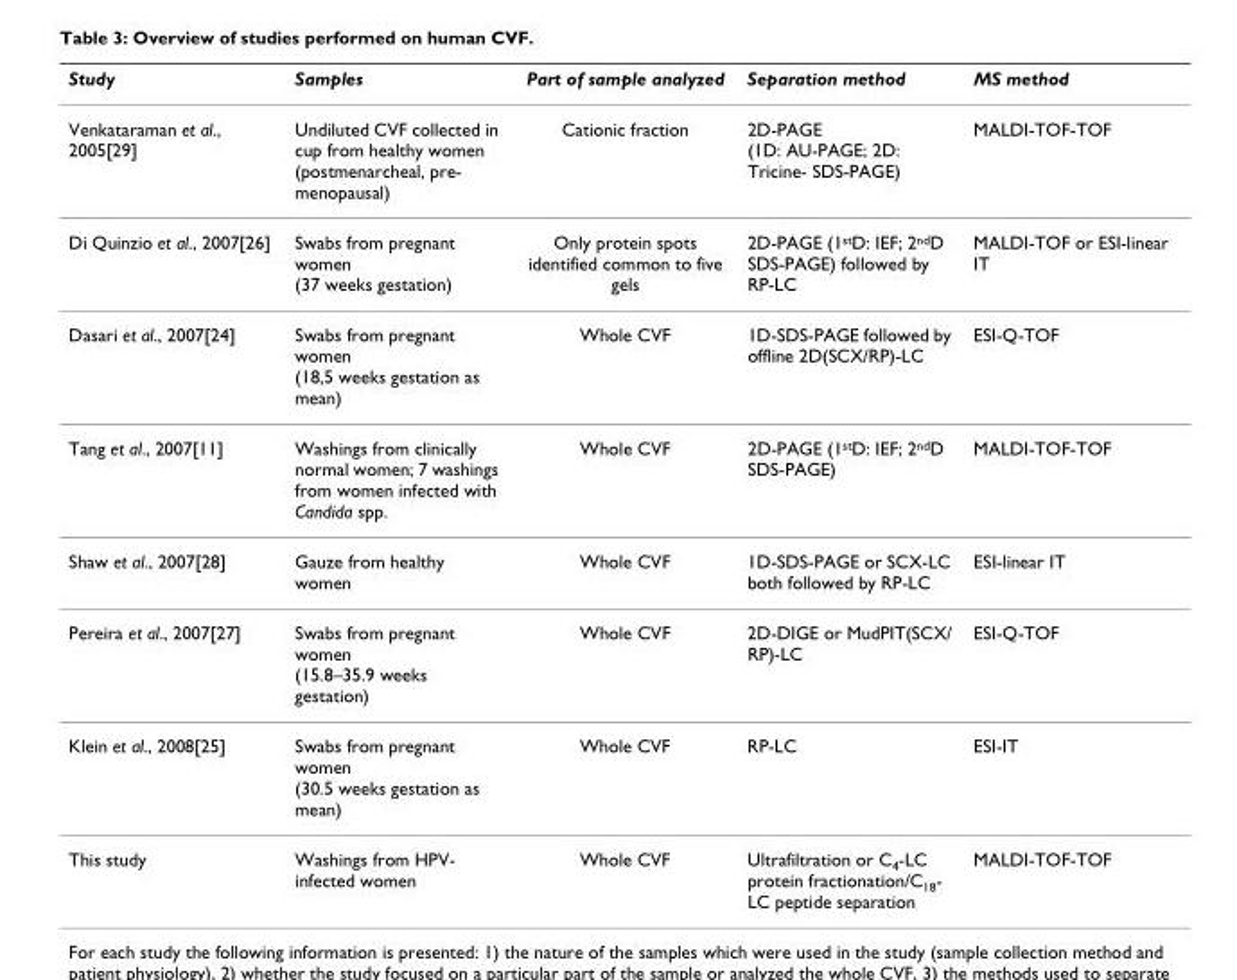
<table><thead><tr><td>Study</td><td>Samples</td><td>Part of sample analyzed</td><td>Separation method</td><td>MS method</td></tr></thead><tbody><tr><td>Venkataraman et al., 2005[29]</td><td>Undiluted CVF collected in cup from healthy women (postmenarcheal, pre- menopausal)</td><td>Cationic fraction</td><td>2D-PAGE (1D: AU-PAGE; 2D: Tricine- SDS-PAGE)</td><td>MALDI-TOF-TOF</td></tr><tr><td>Di Quinzio et al., 2007[26]</td><td>Swabs from pregnant women (37 weeks gestation)</td><td>Only protein spots identified common to five gels</td><td>2D-PAGE (1<sup>st</sup>D: IEF; 2<sup>nd</sup>D SDS-PAGE) followed by RP-LC</td><td>MALDI-TOF or ESI-linear IT</td></tr><tr><td>Dasari et al., 2007[24]</td><td>Swabs from pregnant women (18,5 weeks gestation as mean)</td><td>Whole CVF</td><td>1D-SDS-PAGE followed by offline 2D(SCX/RP)-LC</td><td>ESI-Q-TOF</td></tr><tr><td>Tang et al., 2007[11]</td><td>Washings from clinically normal women; 7 washings from women infected with Candida spp.</td><td>Whole CVF</td><td>2D-PAGE (1<sup>st</sup>D: IEF; 2<sup>nd</sup>D SDS-PAGE)</td><td>MALDI-TOF-TOF</td></tr><tr><td>Shaw et al., 2007[28]</td><td>Gauze from healthy women</td><td>Whole CVF</td><td>1D-SDS-PAGE or SCX-LC both followed by RP-LC</td><td>ESI-linear IT</td></tr><tr><td>Pereira et al., 2007[27]</td><td>Swabs from pregnant women (15.8–35.9 weeks gestation)</td><td>Whole CVF</td><td>2D-DIGE or MudPIT(SCX/ RP)-LC</td><td>ESI-Q-TOF</td></tr><tr><td>Klein et al., 2008[25]</td><td>Swabs from pregnant women (30.5 weeks gestation as mean)</td><td>Whole CVF</td><td>RP-LC</td><td>ESI-IT</td></tr><tr><td>This study</td><td>Washings from HPV- infected women</td><td>Whole CVF</td><td>Ultrafiltration or C<sub>4</sub>-LC protein fractionation/C<sub>18</sub>- LC peptide separation</td><td>MALDI-TOF-TOF</td></tr></tbody></table>